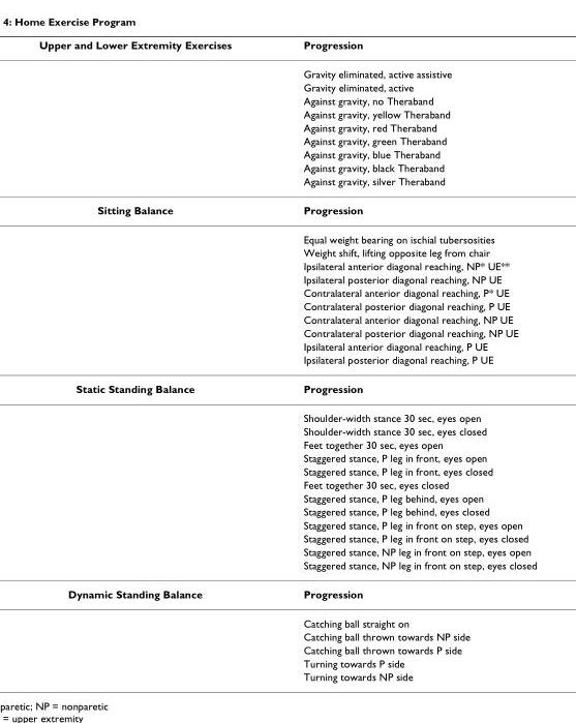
<table><thead><tr><td>Upper and Lower Extremity Exercises</td><td>Progression</td></tr></thead><tbody><tr><td></td><td>Gravity eliminated, active assistive</td></tr><tr><td></td><td>Gravity eliminated, active</td></tr><tr><td></td><td>Against gravity, no Theraband</td></tr><tr><td></td><td>Against gravity, yellow Theraband</td></tr><tr><td></td><td>Against gravity, red Theraband</td></tr><tr><td></td><td>Against gravity, green Theraband</td></tr><tr><td></td><td>Against gravity, blue Theraband</td></tr><tr><td></td><td>Against gravity, black Theraband</td></tr><tr><td></td><td>Against gravity, silver Theraband</td></tr><tr><td rowspan="11">Sitting Balance</td><td>Progression</td></tr><tr><td>Equal weight bearing on ischial tubersosities</td></tr><tr><td>Weight shift, lifting opposite leg from chair</td></tr><tr><td>Ipsilateral anterior diagonal reaching, NP* UE**</td></tr><tr><td>Ipsilateral posterior diagonal reaching, NP UE</td></tr><tr><td>Contralateral anterior diagonal reaching, P* UE</td></tr><tr><td>Contralateral posterior diagonal reaching, P UE</td></tr><tr><td>Contralateral anterior diagonal reaching, NP UE</td></tr><tr><td>Contralateral posterior diagonal reaching, NP UE</td></tr><tr><td>Ipsilateral anterior diagonal reaching, P UE</td></tr><tr><td>Ipsilateral posterior diagonal reaching, P UE</td></tr><tr><td rowspan="13">Static Standing Balance</td><td>Progression</td></tr><tr><td>Shoulder-width stance 30 sec, eyes open</td></tr><tr><td>Shoulder-width stance 30 sec, eyes closed</td></tr><tr><td>Feet together 30 sec, eyes open</td></tr><tr><td>Staggered stance, P leg in front, eyes open</td></tr><tr><td>Staggered stance, P leg in front, eyes closed</td></tr><tr><td>Feet together 30 sec, eyes closed</td></tr><tr><td>Staggered stance, P leg behind, eyes open</td></tr><tr><td>Staggered stance, P leg behind, eyes closed</td></tr><tr><td>Staggered stance, P leg in front on step, eyes open</td></tr><tr><td>Staggered stance, P leg in front on step, eyes closed</td></tr><tr><td>Staggered stance, NP leg in front on step, eyes open</td></tr><tr><td>Staggered stance, NP leg in front on step, eyes closed</td></tr><tr><td rowspan="6">Dynamic Standing Balance</td><td>Progression</td></tr><tr><td>Catching ball straight on</td></tr><tr><td>Catching ball thrown towards NP side</td></tr><tr><td>Catching ball thrown towards P side</td></tr><tr><td>Turning towards P side</td></tr><tr><td>Turning towards NP side</td></tr></tbody></table>